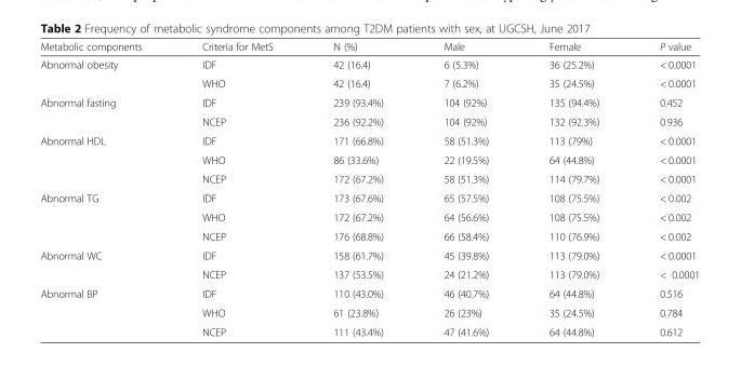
<table><thead><tr><td>Metabolic components</td><td>Criteria for MetS</td><td>N (%)</td><td>Male</td><td>Female</td><td>P value</td></tr></thead><tbody><tr><td rowspan="2">Abnormal obesity</td><td>IDF</td><td>42 (16.4)</td><td>6 (5.3%)</td><td>36 (25.2%)</td><td>&lt; 0.0001</td></tr><tr><td>WHO</td><td>42 (16.4)</td><td>7 (6.2%)</td><td>35 (24.5%)</td><td>&lt; 0.0001</td></tr><tr><td rowspan="2">Abnormal fasting</td><td>IDF</td><td>239 (93.4%)</td><td>104 (92%)</td><td>135 (94.4%)</td><td>0.452</td></tr><tr><td>NCEP</td><td>236 (92.2%)</td><td>104 (92%)</td><td>132 (92.3%)</td><td>0.936</td></tr><tr><td rowspan="3">Abnormal HDL</td><td>IDF</td><td>171 (66.8%)</td><td>58 (51.3%)</td><td>113 (79%)</td><td>&lt; 0.0001</td></tr><tr><td>WHO</td><td>86 (33.6%)</td><td>22 (19.5%)</td><td>64 (44.8%)</td><td>&lt; 0.0001</td></tr><tr><td>NCEP</td><td>172 (67.2%)</td><td>58 (51.3%)</td><td>114 (79.7%)</td><td>&lt; 0.0001</td></tr><tr><td rowspan="3">Abnormal TG</td><td>IDF</td><td>173 (67.6%)</td><td>65 (57.5%)</td><td>108 (75.5%)</td><td>&lt; 0.002</td></tr><tr><td>WHO</td><td>172 (67.2%)</td><td>64 (56.6%)</td><td>108 (75.5%)</td><td>&lt; 0.002</td></tr><tr><td>NCEP</td><td>176 (68.8%)</td><td>66 (58.4%)</td><td>110 (76.9%)</td><td>&lt; 0.002</td></tr><tr><td rowspan="2">Abnormal WC</td><td>IDF</td><td>158 (61.7%)</td><td>45 (39.8%)</td><td>113 (79.0%)</td><td>&lt; 0.0001</td></tr><tr><td>NCEP</td><td>137 (53.5%)</td><td>24 (21.2%)</td><td>113 (79.0%)</td><td>&lt; 0.0001</td></tr><tr><td rowspan="3">Abnormal BP</td><td>IDF</td><td>110 (43.0%)</td><td>46 (40.7%)</td><td>64 (44.8%)</td><td>0.516</td></tr><tr><td>WHO</td><td>61 (23.8%)</td><td>26 (23%)</td><td>35 (24.5%)</td><td>0.784</td></tr><tr><td>NCEP</td><td>111 (43.4%)</td><td>47 (41.6%)</td><td>64 (44.8%)</td><td>0.612</td></tr></tbody></table>